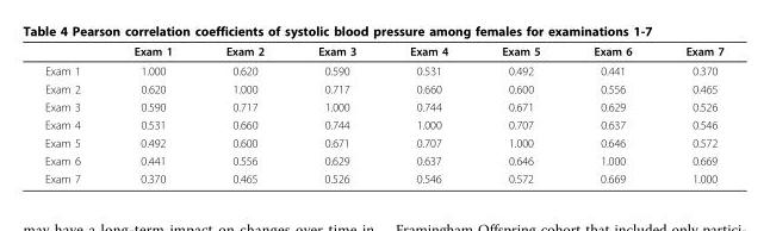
<table><thead><tr><td></td><td>Exam 1</td><td>Exam 2</td><td>Exam 3</td><td>Exam 4</td><td>Exam 5</td><td>Exam 6</td><td>Exam 7</td></tr></thead><tbody><tr><td>Exam 1</td><td>1.000</td><td>0.620</td><td>0.590</td><td>0.531</td><td>0.492</td><td>0.441</td><td>0.370</td></tr><tr><td>Exam 2</td><td>0.620</td><td>1.000</td><td>0.717</td><td>0.660</td><td>0.600</td><td>0.556</td><td>0.465</td></tr><tr><td>Exam 3</td><td>0.590</td><td>0.717</td><td>1.000</td><td>0.744</td><td>0.671</td><td>0.629</td><td>0.526</td></tr><tr><td>Exam 4</td><td>0.531</td><td>0.660</td><td>0.744</td><td>1.000</td><td>0.707</td><td>0.637</td><td>0.546</td></tr><tr><td>Exam 5</td><td>0.492</td><td>0.600</td><td>0.671</td><td>0.707</td><td>1.000</td><td>0.646</td><td>0.572</td></tr><tr><td>Exam 6</td><td>0.441</td><td>0.556</td><td>0.629</td><td>0.637</td><td>0.646</td><td>1.000</td><td>0.669</td></tr><tr><td>Exam 7</td><td>0.370</td><td>0.465</td><td>0.526</td><td>0.546</td><td>0.572</td><td>0.669</td><td>1.000</td></tr></tbody></table>